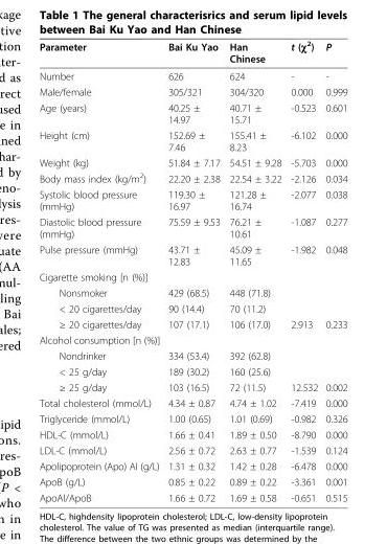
<table><thead><tr><td>Parameter</td><td>Bai Ku Yao</td><td>Han Chinese</td><td>t (χ<sup>2</sup>)</td><td>P</td></tr></thead><tbody><tr><td>Number</td><td>626</td><td>624</td><td>-</td><td>-</td></tr><tr><td>Male/female</td><td>305/321</td><td>304/320</td><td>0.000</td><td>0.999</td></tr><tr><td>Age (years)</td><td>40.25 ± 14.97</td><td>40.71 ± 15.71</td><td>-0.523</td><td>0.601</td></tr><tr><td>Height (cm)</td><td>152.69 ± 7.46</td><td>155.41 ± 8.23</td><td>-6.102</td><td>0.000</td></tr><tr><td>Weight (kg)</td><td>51.84 ± 7.17</td><td>54.51 ± 9.28</td><td>-5.703</td><td>0.000</td></tr><tr><td>Body mass index (kg/m<sup>2</sup>)</td><td>22.20 ± 2.38</td><td>22.54 ± 3.22</td><td>-2.126</td><td>0.034</td></tr><tr><td>Systolic blood pressure (mmHg)</td><td>119.30 ± 16.97</td><td>121.28 ± 16.74</td><td>-2.077</td><td>0.038</td></tr><tr><td>Diastolic blood pressure (mmHg)</td><td>75.59 ± 9.53</td><td>76.21 ± 10.61</td><td>-1.087</td><td>0.277</td></tr><tr><td>Pulse pressure (mmHg)</td><td>43.71 ± 12.83</td><td>45.09 ± 11.65</td><td>-1.982</td><td>0.048</td></tr><tr><td colspan="5">Cigarette smoking [n (%)]</td></tr><tr><td>Nonsmoker</td><td>429 (68.5)</td><td>448 (71.8)</td><td></td><td></td></tr><tr><td>&lt; 20 cigarettes/day</td><td>90 (14.4)</td><td>70 (11.2)</td><td></td><td></td></tr><tr><td>≥ 20 cigarettes/day</td><td>107 (17.1)</td><td>106 (17.0)</td><td>2.913</td><td>0.233</td></tr><tr><td colspan="5">Alcohol consumption [n (%)]</td></tr><tr><td>Nondrinker</td><td>334 (53.4)</td><td>392 (62.8)</td><td></td><td></td></tr><tr><td>&lt; 25 g/day</td><td>189 (30.2)</td><td>160 (25.6)</td><td></td><td></td></tr><tr><td>≥ 25 g/day</td><td>103 (16.5)</td><td>72 (11.5)</td><td>12.532</td><td>0.002</td></tr><tr><td>Total cholesterol (mmol/L)</td><td>4.34 ± 0.87</td><td>4.74 ± 1.02</td><td>-7.419</td><td>0.000</td></tr><tr><td>Triglyceride (mmol/L)</td><td>1.00 (0.65)</td><td>1.01 (0.69)</td><td>-0.982</td><td>0.326</td></tr><tr><td>HDL-C (mmol/L)</td><td>1.66 ± 0.41</td><td>1.89 ± 0.50</td><td>-8.790</td><td>0.000</td></tr><tr><td>LDL-C (mmol/L)</td><td>2.56 ± 0.72</td><td>2.63 ± 0.77</td><td>-1.539</td><td>0.124</td></tr><tr><td>Apolipoprotein (Apo) AI (g/L)</td><td>1.31 ± 0.32</td><td>1.42 ± 0.28</td><td>-6.478</td><td>0.000</td></tr><tr><td>ApoB (g/L)</td><td>0.85 ± 0.22</td><td>0.89 ± 0.22</td><td>-3.361</td><td>0.001</td></tr><tr><td>ApoAI/ApoB</td><td>1.66 ± 0.72</td><td>1.69 ± 0.58</td><td>-0.651</td><td>0.515</td></tr></tbody></table>